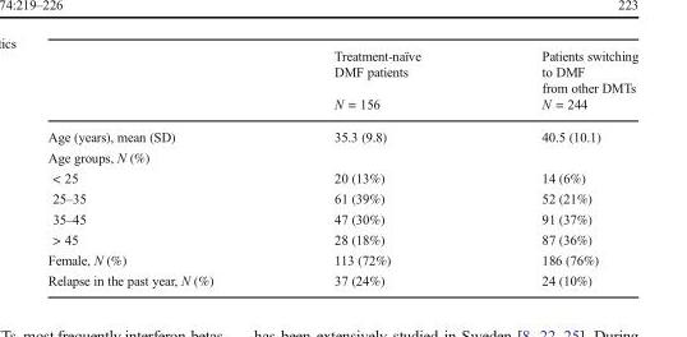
<table><thead><tr><td rowspan="2"></td><td rowspan="2">Treatment-naïve DMF patients N = 156</td><td rowspan="2">Patients switching to DMF from other DMTs N = 244</td></tr><tr></tr></thead><tbody><tr><td>Age (years), mean (SD)</td><td>35.3 (9.8)</td><td>40.5 (10.1)</td></tr><tr><td colspan="3">Age groups, N (%)</td></tr><tr><td>&lt; 25</td><td>20 (13%)</td><td>14 (6%)</td></tr><tr><td>25–35</td><td>61 (39%)</td><td>52 (21%)</td></tr><tr><td>35–45</td><td>47 (30%)</td><td>91 (37%)</td></tr><tr><td>&gt; 45</td><td>28 (18%)</td><td>87 (36%)</td></tr><tr><td>Female, N (%)</td><td>113 (72%)</td><td>186 (76%)</td></tr><tr><td>Relapse in the past year, N (%)</td><td>37 (24%)</td><td>24 (10%)</td></tr></tbody></table>